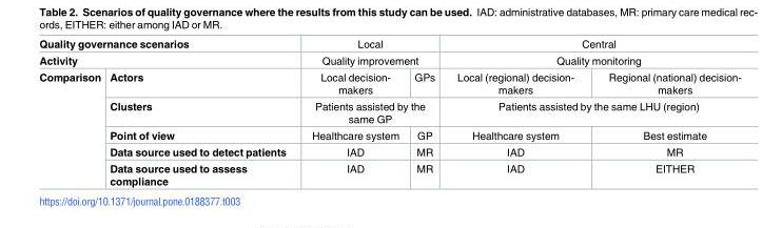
<table><tbody><tr><td colspan="2">Quality governance scenarios</td><td colspan="2">Local</td><td colspan="2">Central</td></tr><tr><td colspan="2">Activity</td><td colspan="2">Quality improvement</td><td colspan="2">Quality monitoring</td></tr><tr><td rowspan="5">Comparison</td><td>Actors</td><td>Local decision- makers</td><td>GPs</td><td>Local (regional) decision- makers</td><td>Regional (national) decision- makers</td></tr><tr><td>Clusters</td><td colspan="2">Patients assisted by the same GP</td><td colspan="2">Patients assisted by the same LHU (region)</td></tr><tr><td>Point of view</td><td>Healthcare system</td><td>GP</td><td>Healthcare system</td><td>Best estimate</td></tr><tr><td>Data source used to detect patients</td><td>IAD</td><td>MR</td><td>IAD</td><td>MR</td></tr><tr><td>Data source used to assess compliance</td><td>IAD</td><td>MR</td><td>IAD</td><td>EITHER</td></tr></tbody></table>